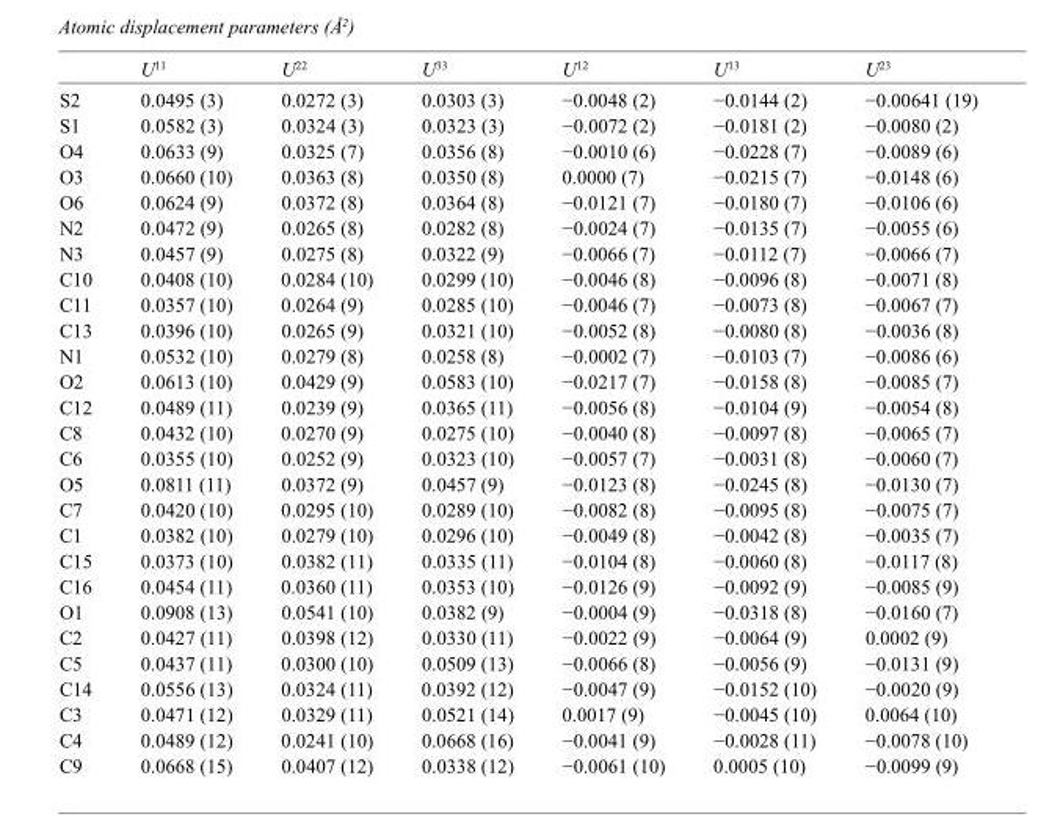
<table><thead><tr><td></td><td>U<sup>11</sup></td><td>U<sup>22</sup></td><td>U<sup>33</sup></td><td>U<sup>12</sup></td><td>U<sup>13</sup></td><td>U<sup>23</sup></td></tr></thead><tbody><tr><td>S2</td><td>0.0495 (3)</td><td>0.0272 (3)</td><td>0.0303 (3)</td><td>−0.0048 (2)</td><td>−0.0144 (2)</td><td>−0.00641 (19)</td></tr><tr><td>S1</td><td>0.0582 (3)</td><td>0.0324 (3)</td><td>0.0323 (3)</td><td>−0.0072 (2)</td><td>−0.0181 (2)</td><td>−0.0080 (2)</td></tr><tr><td>O4</td><td>0.0633 (9)</td><td>0.0325 (7)</td><td>0.0356 (8)</td><td>−0.0010 (6)</td><td>−0.0228 (7)</td><td>−0.0089 (6)</td></tr><tr><td>O3</td><td>0.0660 (10)</td><td>0.0363 (8)</td><td>0.0350 (8)</td><td>0.0000 (7)</td><td>−0.0215 (7)</td><td>−0.0148 (6)</td></tr><tr><td>O6</td><td>0.0624 (9)</td><td>0.0372 (8)</td><td>0.0364 (8)</td><td>−0.0121 (7)</td><td>−0.0180 (7)</td><td>−0.0106 (6)</td></tr><tr><td>N2</td><td>0.0472 (9)</td><td>0.0265 (8)</td><td>0.0282 (8)</td><td>−0.0024 (7)</td><td>−0.0135 (7)</td><td>−0.0055 (6)</td></tr><tr><td>N3</td><td>0.0457 (9)</td><td>0.0275 (8)</td><td>0.0322 (9)</td><td>−0.0066 (7)</td><td>−0.0112 (7)</td><td>−0.0066 (7)</td></tr><tr><td>C10</td><td>0.0408 (10)</td><td>0.0284 (10)</td><td>0.0299 (10)</td><td>−0.0046 (8)</td><td>−0.0096 (8)</td><td>−0.0071 (8)</td></tr><tr><td>C11</td><td>0.0357 (10)</td><td>0.0264 (9)</td><td>0.0285 (10)</td><td>−0.0046 (7)</td><td>−0.0073 (8)</td><td>−0.0067 (7)</td></tr><tr><td>C13</td><td>0.0396 (10)</td><td>0.0265 (9)</td><td>0.0321 (10)</td><td>−0.0052 (8)</td><td>−0.0080 (8)</td><td>−0.0036 (8)</td></tr><tr><td>N1</td><td>0.0532 (10)</td><td>0.0279 (8)</td><td>0.0258 (8)</td><td>−0.0002 (7)</td><td>−0.0103 (7)</td><td>−0.0086 (6)</td></tr><tr><td>O2</td><td>0.0613 (10)</td><td>0.0429 (9)</td><td>0.0583 (10)</td><td>−0.0217 (7)</td><td>−0.0158 (8)</td><td>−0.0085 (7)</td></tr><tr><td>C12</td><td>0.0489 (11)</td><td>0.0239 (9)</td><td>0.0365 (11)</td><td>−0.0056 (8)</td><td>−0.0104 (9)</td><td>−0.0054 (8)</td></tr><tr><td>C8</td><td>0.0432 (10)</td><td>0.0270 (9)</td><td>0.0275 (10)</td><td>−0.0040 (8)</td><td>−0.0097 (8)</td><td>−0.0065 (7)</td></tr><tr><td>C6</td><td>0.0355 (10)</td><td>0.0252 (9)</td><td>0.0323 (10)</td><td>−0.0057 (7)</td><td>−0.0031 (8)</td><td>−0.0060 (7)</td></tr><tr><td>O5</td><td>0.0811 (11)</td><td>0.0372 (9)</td><td>0.0457 (9)</td><td>−0.0123 (8)</td><td>−0.0245 (8)</td><td>−0.0130 (7)</td></tr><tr><td>C7</td><td>0.0420 (10)</td><td>0.0295 (10)</td><td>0.0289 (10)</td><td>−0.0082 (8)</td><td>−0.0095 (8)</td><td>−0.0075 (7)</td></tr><tr><td>C1</td><td>0.0382 (10)</td><td>0.0279 (10)</td><td>0.0296 (10)</td><td>−0.0049 (8)</td><td>−0.0042 (8)</td><td>−0.0035 (7)</td></tr><tr><td>C15</td><td>0.0373 (10)</td><td>0.0382 (11)</td><td>0.0335 (11)</td><td>−0.0104 (8)</td><td>−0.0060 (8)</td><td>−0.0117 (8)</td></tr><tr><td>C16</td><td>0.0454 (11)</td><td>0.0360 (11)</td><td>0.0353 (10)</td><td>−0.0126 (9)</td><td>−0.0092 (9)</td><td>−0.0085 (9)</td></tr><tr><td>O1</td><td>0.0908 (13)</td><td>0.0541 (10)</td><td>0.0382 (9)</td><td>−0.0004 (9)</td><td>−0.0318 (8)</td><td>−0.0160 (7)</td></tr><tr><td>C2</td><td>0.0427 (11)</td><td>0.0398 (12)</td><td>0.0330 (11)</td><td>−0.0022 (9)</td><td>−0.0064 (9)</td><td>0.0002 (9)</td></tr><tr><td>C5</td><td>0.0437 (11)</td><td>0.0300 (10)</td><td>0.0509 (13)</td><td>−0.0066 (8)</td><td>−0.0056 (9)</td><td>−0.0131 (9)</td></tr><tr><td>C14</td><td>0.0556 (13)</td><td>0.0324 (11)</td><td>0.0392 (12)</td><td>−0.0047 (9)</td><td>−0.0152 (10)</td><td>−0.0020 (9)</td></tr><tr><td>C3</td><td>0.0471 (12)</td><td>0.0329 (11)</td><td>0.0521 (14)</td><td>0.0017 (9)</td><td>−0.0045 (10)</td><td>0.0064 (10)</td></tr><tr><td>C4</td><td>0.0489 (12)</td><td>0.0241 (10)</td><td>0.0668 (16)</td><td>−0.0041 (9)</td><td>−0.0028 (11)</td><td>−0.0078 (10)</td></tr><tr><td>C9</td><td>0.0668 (15)</td><td>0.0407 (12)</td><td>0.0338 (12)</td><td>−0.0061 (10)</td><td>0.0005 (10)</td><td>−0.0099 (9)</td></tr></tbody></table>